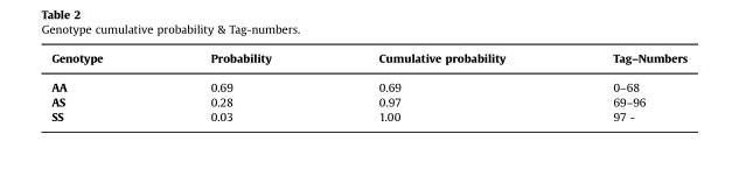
<table><thead><tr><td>Genotype</td><td>Probability</td><td>Cumulative probability</td><td>Tag–Numbers</td></tr></thead><tbody><tr><td>AA</td><td>0.69</td><td>0.69</td><td>0–68</td></tr><tr><td>AS</td><td>0.28</td><td>0.97</td><td>69–96</td></tr><tr><td>SS</td><td>0.03</td><td>1.00</td><td>97 -</td></tr></tbody></table>